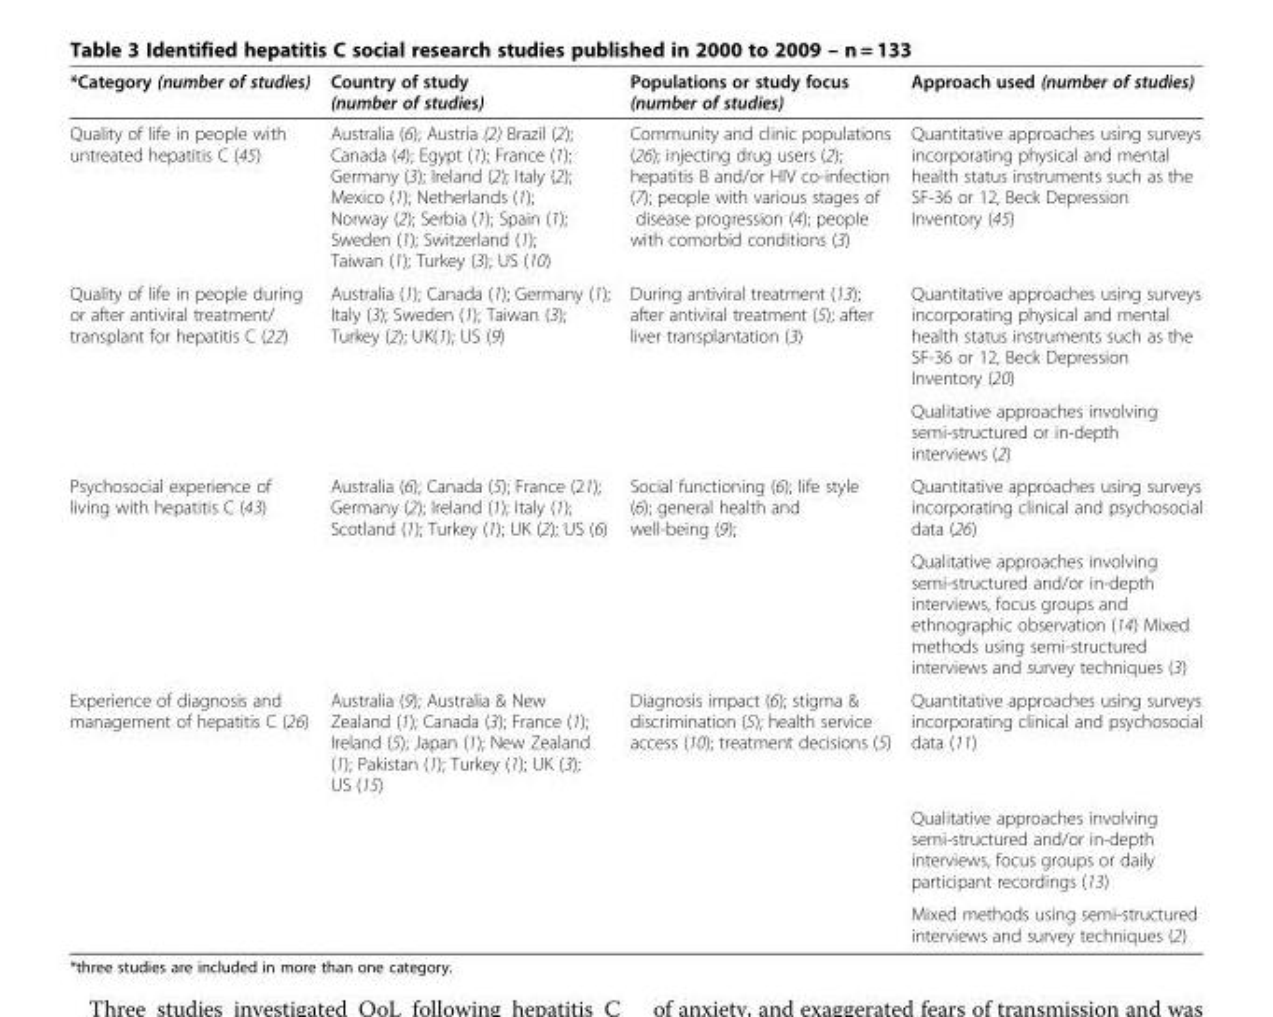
<table><thead><tr><td>*Category (number of studies)</td><td>Country of study (number of studies)</td><td>Populations or study focus (number of studies)</td><td>Approach used (number of studies)</td></tr></thead><tbody><tr><td>Quality of life in people with untreated hepatitis C (45)</td><td>Australia (6); Austria (2) Brazil (2); Canada (4); Egypt (1); France (1); Germany (3); Ireland (2); Italy (2); Mexico (1); Netherlands (1); Norway (2); Serbia (1); Spain (1); Sweden (1); Switzerland (1); Taiwan (1); Turkey (3); US (10)</td><td>Community and clinic populations (26); injecting drug users (2); hepatitis B and/or HIV co-infection (7); people with various stages of disease progression (4); people with comorbid conditions (3)</td><td>Quantitative approaches using surveys incorporating physical and mental health status instruments such as the SF-36 or 12, Beck Depression Inventory (45)</td></tr><tr><td rowspan="2">Quality of life in people during or after antiviral treatment/ transplant for hepatitis C (22)</td><td>Australia (1); Canada (1); Germany (1); Italy (3); Sweden (1); Taiwan (3); Turkey (2); UK(1); US (9)</td><td>During antiviral treatment (13); after antiviral treatment (5); after liver transplantation (3)</td><td>Quantitative approaches using surveys incorporating physical and mental health status instruments such as the SF-36 or 12, Beck Depression Inventory (20)</td></tr><tr><td></td><td></td><td>Qualitative approaches involving semi-structured or in-depth interviews (2)</td></tr><tr><td rowspan="2">Psychosocial experience of living with hepatitis C (43)</td><td>Australia (6); Canada (5); France (21); Germany (2); Ireland (1); Italy (1); Scotland (1); Turkey (1); UK (2); US (6)</td><td>Social functioning (6); life style (6); general health and well-being (9);</td><td>Quantitative approaches using surveys incorporating clinical and psychosocial data (26)</td></tr><tr><td></td><td></td><td>Qualitative approaches involving semi-structured and/or in-depth interviews, focus groups and ethnographic observation (14) Mixed methods using semi-structured interviews and survey techniques (3)</td></tr><tr><td rowspan="3">Experience of diagnosis and management of hepatitis C (26)</td><td>Australia (9); Australia &amp; New Zealand (1); Canada (3); France (1); Ireland (5); Japan (1); New Zealand (1); Pakistan (1); Turkey (1); UK (3); US (15)</td><td>Diagnosis impact (6); stigma &amp; discrimination (5); health service access (10); treatment decisions (5)</td><td>Quantitative approaches using surveys incorporating clinical and psychosocial data (11)</td></tr><tr><td></td><td></td><td>Qualitative approaches involving semi-structured and/or in-depth interviews, focus groups or daily participant recordings (13)</td></tr><tr><td></td><td></td><td>Mixed methods using semi-structured interviews and survey techniques (2)</td></tr></tbody></table>